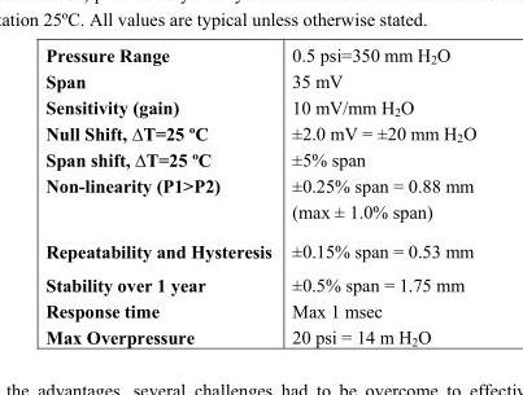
<table><tbody><tr><td>Pressure Range</td><td>0.5 psi=350 mm H<sub>2</sub>O</td></tr><tr><td>Span</td><td>35 mV</td></tr><tr><td>Sensitivity (gain)</td><td>10 mV/mm H<sub>2</sub>O</td></tr><tr><td>Null Shift, ∆T=25 ºC</td><td>±2.0 mV = ±20 mm H<sub>2</sub>O</td></tr><tr><td>Span shift, ∆T=25 ºC</td><td>±5% span</td></tr><tr><td>Non-linearity (P1&gt;P2)</td><td>±0.25% span = 0.88 mm (max ± 1.0% span)</td></tr><tr><td>Repeatability and Hysteresis</td><td>±0.15% span = 0.53 mm</td></tr><tr><td>Stability over 1 year</td><td>±0.5% span = 1.75 mm</td></tr><tr><td>Response time</td><td>Max 1 msec</td></tr><tr><td>Max Overpressure</td><td>20 psi = 14 m H<sub>2</sub>O</td></tr></tbody></table>